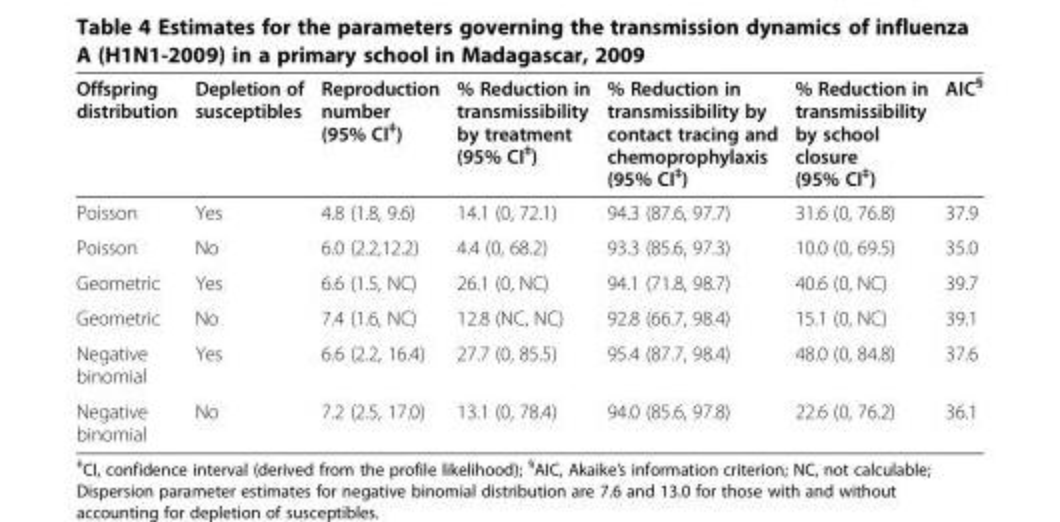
<table><thead><tr><td>Offspring distribution</td><td>Depletion of susceptibles</td><td>Reproduction number (95% CI<sup>‡</sup>)</td><td>% Reduction in transmissibility by treatment (95% CI<sup>‡</sup>)</td><td>% Reduction in transmissibility by contact tracing and chemoprophylaxis (95% CI<sup>‡</sup>)</td><td>% Reduction in transmissibility by school closure (95% CI<sup>‡</sup>)</td><td>AIC<sup>§</sup></td></tr></thead><tbody><tr><td>Poisson</td><td>Yes</td><td>4.8 (1.8, 9.6)</td><td>14.1 (0, 72.1)</td><td>94.3 (87.6, 97.7)</td><td>31.6 (0, 76.8)</td><td>37.9</td></tr><tr><td>Poisson</td><td>No</td><td>6.0 (2.2,12.2)</td><td>4.4 (0, 68.2)</td><td>93.3 (85.6, 97.3)</td><td>10.0 (0, 69.5)</td><td>35.0</td></tr><tr><td>Geometric</td><td>Yes</td><td>6.6 (1.5, NC)</td><td>26.1 (0, NC)</td><td>94.1 (71.8, 98.7)</td><td>40.6 (0, NC)</td><td>39.7</td></tr><tr><td>Geometric</td><td>No</td><td>7.4 (1.6, NC)</td><td>12.8 (NC, NC)</td><td>92.8 (66.7, 98.4)</td><td>15.1 (0, NC)</td><td>39.1</td></tr><tr><td>Negative binomial</td><td>Yes</td><td>6.6 (2.2, 16.4)</td><td>27.7 (0, 85.5)</td><td>95.4 (87.7, 98.4)</td><td>48.0 (0, 84.8)</td><td>37.6</td></tr><tr><td>Negative binomial</td><td>No</td><td>7.2 (2.5, 17.0)</td><td>13.1 (0, 78.4)</td><td>94.0 (85.6, 97.8)</td><td>22.6 (0, 76.2)</td><td>36.1</td></tr></tbody></table>